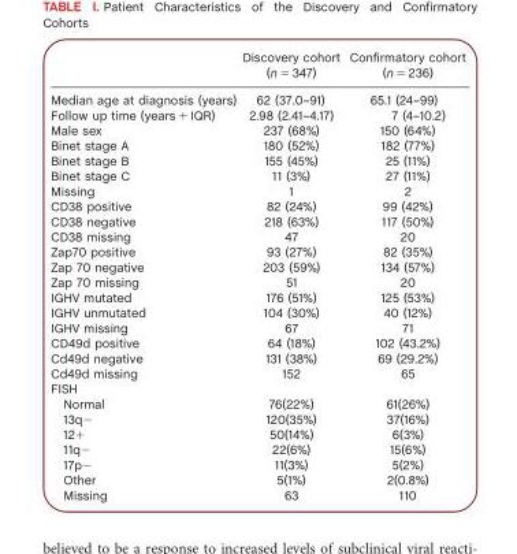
<table><thead><tr><td></td><td>Discovery cohort (n = 347)</td><td>Confirmatory cohort (n = 236)</td></tr></thead><tbody><tr><td>Median age at diagnosis (years)</td><td>62 (37.0–91)</td><td>65.1 (24–99)</td></tr><tr><td>Follow up time (years + IQR)</td><td>2.98 (2.41–4.17)</td><td>7 (4–10.2)</td></tr><tr><td>Male sex</td><td>237 (68%)</td><td>150 (64%)</td></tr><tr><td>Binet stage A</td><td>180 (52%)</td><td>182 (77%)</td></tr><tr><td>Binet stage B</td><td>155 (45%)</td><td>25 (11%)</td></tr><tr><td>Binet stage C</td><td>11 (3%)</td><td>27 (11%)</td></tr><tr><td>Missing</td><td>1</td><td>2</td></tr><tr><td>CD38 positive</td><td>82 (24%)</td><td>99 (42%)</td></tr><tr><td>CD38 negative</td><td>218 (63%)</td><td>117 (50%)</td></tr><tr><td>CD38 missing</td><td>47</td><td>20</td></tr><tr><td>Zap70 positive</td><td>93 (27%)</td><td>82 (35%)</td></tr><tr><td>Zap 70 negative</td><td>203 (59%)</td><td>134 (57%)</td></tr><tr><td>Zap 70 missing</td><td>51</td><td>20</td></tr><tr><td>IGHV mutated</td><td>176 (51%)</td><td>125 (53%)</td></tr><tr><td>IGHV unmutated</td><td>104 (30%)</td><td>40 (12%)</td></tr><tr><td>IGHV missing</td><td>67</td><td>71</td></tr><tr><td>CD49d positive</td><td>64 (18%)</td><td>102 (43.2%)</td></tr><tr><td>Cd49d negative</td><td>131 (38%)</td><td>69 (29.2%)</td></tr><tr><td>Cd49d missing</td><td>152</td><td>65</td></tr><tr><td colspan="3">FISH</td></tr><tr><td>Normal</td><td>76(22%)</td><td>61(26%)</td></tr><tr><td>13q−</td><td>120(35%)</td><td>37(16%)</td></tr><tr><td>12+</td><td>50(14%)</td><td>6(3%)</td></tr><tr><td>11q−</td><td>22(6%)</td><td>15(6%)</td></tr><tr><td>17p−</td><td>11(3%)</td><td>5(2%)</td></tr><tr><td>Other</td><td>5(1%)</td><td>2(0.8%)</td></tr><tr><td>Missing</td><td>63</td><td>110</td></tr></tbody></table>